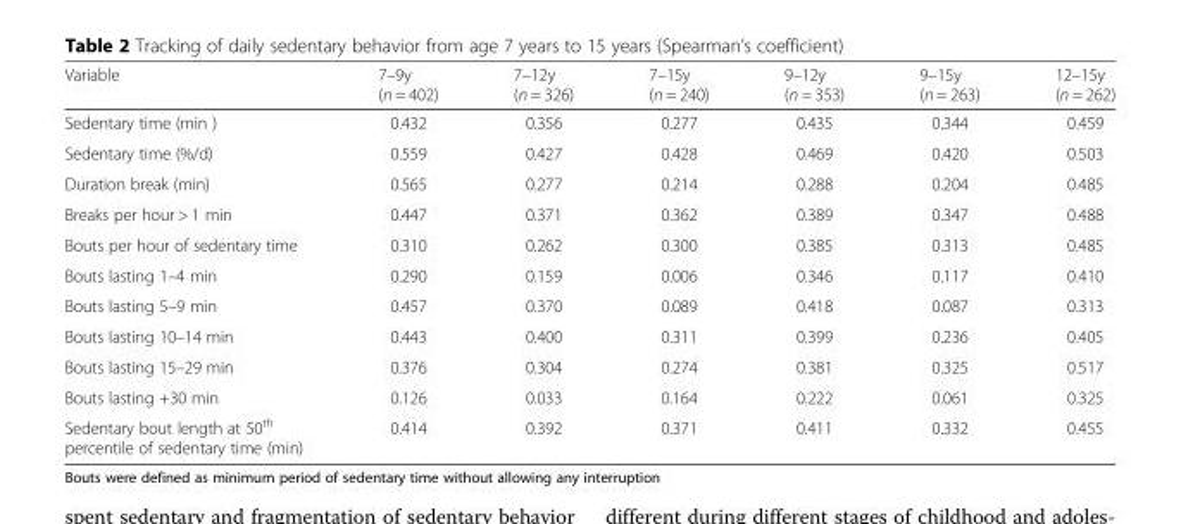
<table><thead><tr><td>Variable</td><td>7–9y (n = 402)</td><td>7–12y (n = 326)</td><td>7–15y (n = 240)</td><td>9–12y (n = 353)</td><td>9–15y (n = 263)</td><td>12–15y (n = 262)</td></tr></thead><tbody><tr><td>Sedentary time (min )</td><td>0.432</td><td>0.356</td><td>0.277</td><td>0.435</td><td>0.344</td><td>0.459</td></tr><tr><td>Sedentary time (%/d)</td><td>0.559</td><td>0.427</td><td>0.428</td><td>0.469</td><td>0.420</td><td>0.503</td></tr><tr><td>Duration break (min)</td><td>0.565</td><td>0.277</td><td>0.214</td><td>0.288</td><td>0.204</td><td>0.485</td></tr><tr><td>Breaks per hour &gt; 1 min</td><td>0.447</td><td>0.371</td><td>0.362</td><td>0.389</td><td>0.347</td><td>0.488</td></tr><tr><td>Bouts per hour of sedentary time</td><td>0.310</td><td>0.262</td><td>0.300</td><td>0.385</td><td>0.313</td><td>0.485</td></tr><tr><td>Bouts lasting 1–4 min</td><td>0.290</td><td>0.159</td><td>0.006</td><td>0.346</td><td>0.117</td><td>0.410</td></tr><tr><td>Bouts lasting 5–9 min</td><td>0.457</td><td>0.370</td><td>0.089</td><td>0.418</td><td>0.087</td><td>0.313</td></tr><tr><td>Bouts lasting 10–14 min</td><td>0.443</td><td>0.400</td><td>0.311</td><td>0.399</td><td>0.236</td><td>0.405</td></tr><tr><td>Bouts lasting 15–29 min</td><td>0.376</td><td>0.304</td><td>0.274</td><td>0.381</td><td>0.325</td><td>0.517</td></tr><tr><td>Bouts lasting +30 min</td><td>0.126</td><td>0.033</td><td>0.164</td><td>0.222</td><td>0.061</td><td>0.325</td></tr><tr><td>Sedentary bout length at 50<sup>th</sup> percentile of sedentary time (min)</td><td>0.414</td><td>0.392</td><td>0.371</td><td>0.411</td><td>0.332</td><td>0.455</td></tr></tbody></table>